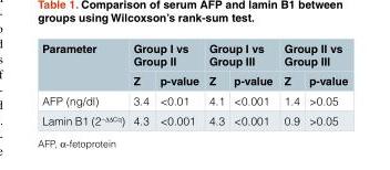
<table><thead><tr><td rowspan="2">Parameter</td><td colspan="2">Group I vs Group II</td><td colspan="2">Group I vs Group III</td><td colspan="2">Group II vs Group III</td></tr><tr><td>Z</td><td>p-value</td><td>Z</td><td>p-value</td><td>Z</td><td>p-value</td></tr></thead><tbody><tr><td>AFP (ng/dl)</td><td>3.4</td><td>&lt;0.01</td><td>4.1</td><td>&lt;0.001</td><td>1.4</td><td>&gt;0.05</td></tr><tr><td>Lamin B1 (2<sup>−ΔΔCq</sup>)</td><td>4.3</td><td>&lt;0.001</td><td>4.3</td><td>&lt;0.001</td><td>0.9</td><td>&gt;0.05</td></tr></tbody></table>